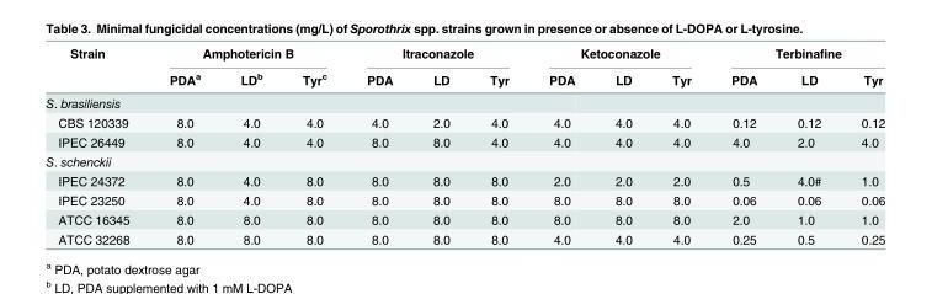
<table><thead><tr><td rowspan="2">Strain</td><td colspan="3">Amphotericin B</td><td colspan="3">Itraconazole</td><td colspan="3">Ketoconazole</td><td colspan="3">Terbinafine</td></tr><tr><td>PDA<sup>a</sup></td><td>LD<sup>b</sup></td><td>Tyr<sup>c</sup></td><td>PDA</td><td>LD</td><td>Tyr</td><td>PDA</td><td>LD</td><td>Tyr</td><td>PDA</td><td>LD</td><td>Tyr</td></tr></thead><tbody><tr><td colspan="13">S. brasiliensis</td></tr><tr><td>CBS 120339</td><td>8.0</td><td>4.0</td><td>4.0</td><td>4.0</td><td>2.0</td><td>4.0</td><td>4.0</td><td>4.0</td><td>4.0</td><td>0.12</td><td>0.12</td><td>0.12</td></tr><tr><td>IPEC 26449</td><td>8.0</td><td>4.0</td><td>4.0</td><td>8.0</td><td>8.0</td><td>4.0</td><td>4.0</td><td>4.0</td><td>4.0</td><td>4.0</td><td>2.0</td><td>4.0</td></tr><tr><td colspan="13">S. schenckii</td></tr><tr><td>IPEC 24372</td><td>8.0</td><td>4.0</td><td>8.0</td><td>8.0</td><td>8.0</td><td>8.0</td><td>2.0</td><td>2.0</td><td>2.0</td><td>0.5</td><td>4.0#</td><td>1.0</td></tr><tr><td>IPEC 23250</td><td>8.0</td><td>4.0</td><td>8.0</td><td>8.0</td><td>8.0</td><td>8.0</td><td>8.0</td><td>8.0</td><td>8.0</td><td>0.06</td><td>0.06</td><td>0.06</td></tr><tr><td>ATCC 16345</td><td>8.0</td><td>8.0</td><td>8.0</td><td>8.0</td><td>8.0</td><td>8.0</td><td>8.0</td><td>8.0</td><td>8.0</td><td>2.0</td><td>1.0</td><td>1.0</td></tr><tr><td>ATCC 32268</td><td>8.0</td><td>8.0</td><td>8.0</td><td>8.0</td><td>8.0</td><td>8.0</td><td>4.0</td><td>4.0</td><td>4.0</td><td>0.25</td><td>0.5</td><td>0.25</td></tr></tbody></table>